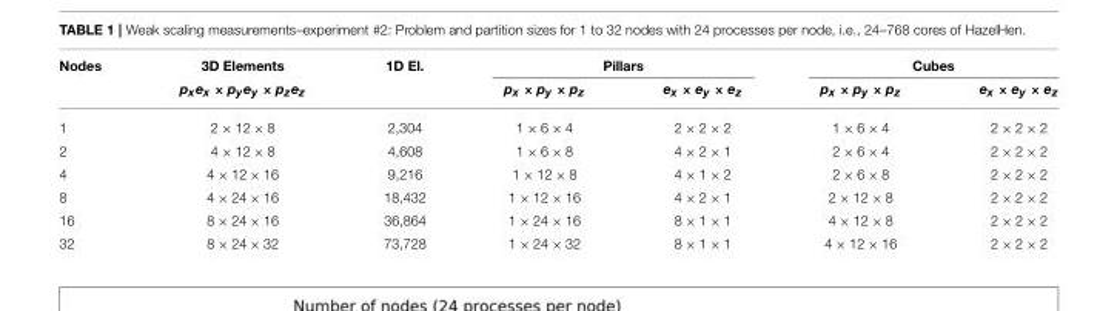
<table><thead><tr><td rowspan="2">Nodes</td><td rowspan="2">3D Elements p<sub>x</sub>e<sub>x</sub> × p<sub>y</sub>e<sub>y</sub> × p<sub>z</sub>e<sub>z</sub></td><td rowspan="2">1D El.</td><td colspan="2">Pillars</td><td colspan="2">Cubes</td></tr><tr><td>p<sub>x</sub> × p<sub>y</sub> × p<sub>z</sub></td><td>e<sub>x</sub> × e<sub>y</sub> × e<sub>z</sub></td><td>p<sub>x</sub> × p<sub>y</sub> × p<sub>z</sub></td><td>e<sub>x</sub> × e<sub>y</sub> × e<sub>z</sub></td></tr></thead><tbody><tr><td>1</td><td>2 × 12 × 8</td><td>2,304</td><td>1 × 6 × 4</td><td>2 × 2 × 2</td><td>1 × 6 × 4</td><td>2 × 2 × 2</td></tr><tr><td>2</td><td>4 × 12 × 8</td><td>4,608</td><td>1 × 6 × 8</td><td>4 × 2 × 1</td><td>2 × 6 × 4</td><td>2 × 2 × 2</td></tr><tr><td>4</td><td>4 × 12 × 16</td><td>9,216</td><td>1 × 12 × 8</td><td>4 × 1 × 2</td><td>2 × 6 × 8</td><td>2 × 2 × 2</td></tr><tr><td>8</td><td>4 × 24 × 16</td><td>18,432</td><td>1 × 12 × 16</td><td>4 × 2 × 1</td><td>2 × 12 × 8</td><td>2 × 2 × 2</td></tr><tr><td>16</td><td>8 × 24 × 16</td><td>36,864</td><td>1 × 24 × 16</td><td>8 × 1 × 1</td><td>4 × 12 × 8</td><td>2 × 2 × 2</td></tr><tr><td>32</td><td>8 × 24 × 32</td><td>73,728</td><td>1 × 24 × 32</td><td>8 × 1 × 1</td><td>4 × 12 × 16</td><td>2 × 2 × 2</td></tr></tbody></table>